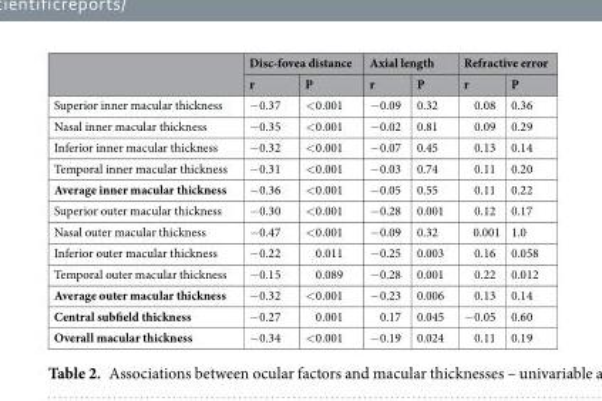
<table><thead><tr><td rowspan="2"></td><td colspan="2">Disc-fovea distance</td><td colspan="2">Axial length</td><td colspan="2">Refractive error</td></tr><tr><td>r</td><td>P</td><td>r</td><td>P</td><td>r</td><td>P</td></tr></thead><tbody><tr><td>Superior inner macular thickness</td><td>−0.37</td><td>&lt;0.001</td><td>−0.09</td><td>0.32</td><td>0.08</td><td>0.36</td></tr><tr><td>Nasal inner macular thickness</td><td>−0.35</td><td>&lt;0.001</td><td>−0.02</td><td>0.81</td><td>0.09</td><td>0.29</td></tr><tr><td>Inferior inner macular thickness</td><td>−0.32</td><td>&lt;0.001</td><td>−0.07</td><td>0.45</td><td>0.13</td><td>0.14</td></tr><tr><td>Temporal inner macular thickness</td><td>−0.31</td><td>&lt;0.001</td><td>−0.03</td><td>0.74</td><td>0.11</td><td>0.20</td></tr><tr><td>Average inner macular thickness</td><td>−0.36</td><td>&lt;0.001</td><td>−0.05</td><td>0.55</td><td>0.11</td><td>0.22</td></tr><tr><td>Superior outer macular thickness</td><td>−0.30</td><td>&lt;0.001</td><td>−0.28</td><td>0.001</td><td>0.12</td><td>0.17</td></tr><tr><td>Nasal outer macular thickness</td><td>−0.47</td><td>&lt;0.001</td><td>−0.09</td><td>0.32</td><td>0.001</td><td>1.0</td></tr><tr><td>Inferior outer macular thickness</td><td>−0.22</td><td>0.011</td><td>−0.25</td><td>0.003</td><td>0.16</td><td>0.058</td></tr><tr><td>Temporal outer macular thickness</td><td>−0.15</td><td>0.089</td><td>−0.28</td><td>0.001</td><td>0.22</td><td>0.012</td></tr><tr><td>Average outer macular thickness</td><td>−0.32</td><td>&lt;0.001</td><td>−0.23</td><td>0.006</td><td>0.13</td><td>0.14</td></tr><tr><td>Central subfield thickness</td><td>−0.27</td><td>0.001</td><td>0.17</td><td>0.045</td><td>−0.05</td><td>0.60</td></tr><tr><td>Overall macular thickness</td><td>−0.34</td><td>&lt;0.001</td><td>−0.19</td><td>0.024</td><td>0.11</td><td>0.19</td></tr></tbody></table>